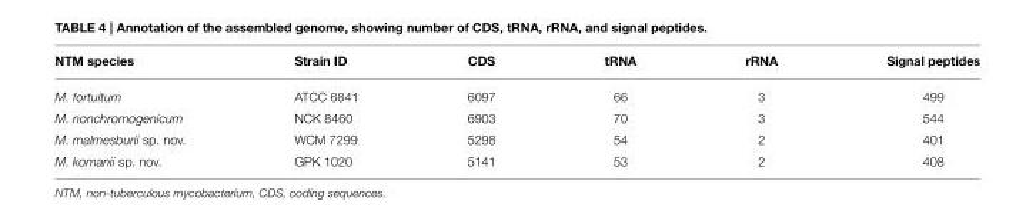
<table><thead><tr><td>NTM species</td><td>Strain ID</td><td>CDS</td><td>tRNA</td><td>rRNA</td><td>Signal peptides</td></tr></thead><tbody><tr><td>M. fortuitum</td><td>ATCC 6841</td><td>6097</td><td>66</td><td>3</td><td>499</td></tr><tr><td>M. nonchromogenicum</td><td>NCK 8460</td><td>6903</td><td>70</td><td>3</td><td>544</td></tr><tr><td>M. malmesburii sp. nov.</td><td>WCM 7299</td><td>5298</td><td>54</td><td>2</td><td>401</td></tr><tr><td>M. komanii sp. nov.</td><td>GPK 1020</td><td>5141</td><td>53</td><td>2</td><td>408</td></tr></tbody></table>